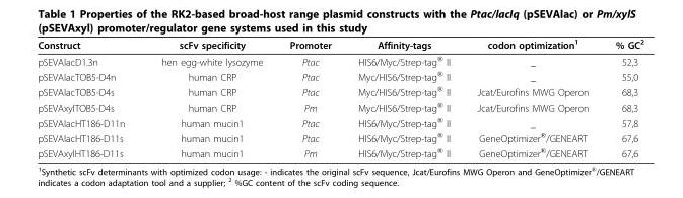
<table><thead><tr><td>Construct</td><td>scFv specificity</td><td>Promoter</td><td>Affinity-tags</td><td>codon optimization<sup>1</sup></td><td>% GC<sup>2</sup></td></tr></thead><tbody><tr><td>pSEVAlacD1.3n</td><td>hen egg-white lysozyme</td><td>Ptac</td><td>HIS6/Myc/Strep-tag<sup>®</sup> II</td><td>_</td><td>52,3</td></tr><tr><td>pSEVAlacTOB5-D4n</td><td>human CRP</td><td>Ptac</td><td>Myc/HIS6/Strep-tag<sup>®</sup> II</td><td>_</td><td>55,0</td></tr><tr><td>pSEVAlacTOB5-D4s</td><td>human CRP</td><td>Ptac</td><td>Myc/HIS6/Strep-tag<sup>®</sup> II</td><td>Jcat/Eurofins MWG Operon</td><td>68,3</td></tr><tr><td>pSEVAxylTOB5-D4s</td><td>human CRP</td><td>Pm</td><td>Myc/HIS6/Strep-tag<sup>®</sup> II</td><td>Jcat/Eurofins MWG Operon</td><td>68,3</td></tr><tr><td>pSEVAlacHT186-D11n</td><td>human mucin1</td><td>Ptac</td><td>HIS6/Myc/Strep-tag<sup>®</sup> II</td><td>_</td><td>57,8</td></tr><tr><td>pSEVAlacHT186-D11s</td><td>human mucin1</td><td>Ptac</td><td>HIS6/Myc/Strep-tag<sup>®</sup> II</td><td>GeneOptimizer<sup>®</sup>/GENEART</td><td>67,6</td></tr><tr><td>pSEVAxylHT186-D11s</td><td>human mucin1</td><td>Pm</td><td>HIS6/Myc/Strep-tag<sup>®</sup> II</td><td>GeneOptimizer<sup>®</sup>/GENEART</td><td>67,6</td></tr></tbody></table>